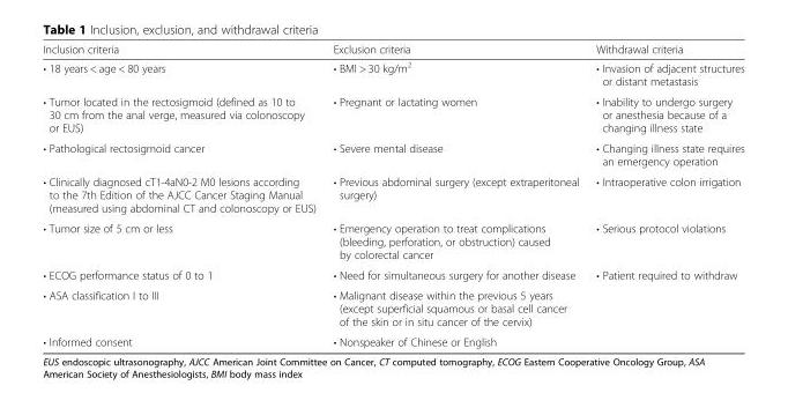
<table><thead><tr><td>Inclusion criteria</td><td>Exclusion criteria</td><td>Withdrawal criteria</td></tr></thead><tbody><tr><td>• 18 years &lt; age &lt; 80 years</td><td>• BMI &gt; 30 kg/m<sup>2</sup></td><td>• Invasion of adjacent structures or distant metastasis</td></tr><tr><td>• Tumor located in the rectosigmoid (defined as 10 to 30 cm from the anal verge, measured via colonoscopy or EUS)</td><td>• Pregnant or lactating women</td><td>• Inability to undergo surgery or anesthesia because of a changing illness state</td></tr><tr><td>• Pathological rectosigmoid cancer</td><td>• Severe mental disease</td><td>• Changing illness state requires an emergency operation</td></tr><tr><td>• Clinically diagnosed cT1-4aN0-2 M0 lesions according to the 7th Edition of the AJCC Cancer Staging Manual (measured using abdominal CT and colonoscopy or EUS)</td><td>• Previous abdominal surgery (except extraperitoneal surgery)</td><td>• Intraoperative colon irrigation</td></tr><tr><td>• Tumor size of 5 cm or less</td><td>• Emergency operation to treat complications (bleeding, perforation, or obstruction) caused by colorectal cancer</td><td>• Serious protocol violations</td></tr><tr><td>• ECOG performance status of 0 to 1</td><td>• Need for simultaneous surgery for another disease</td><td>• Patient required to withdraw</td></tr><tr><td>• ASA classification I to III</td><td>• Malignant disease within the previous 5 years (except superficial squamous or basal cell cancer of the skin or in situ cancer of the cervix)</td><td></td></tr><tr><td>• Informed consent</td><td>• Nonspeaker of Chinese or English</td><td></td></tr></tbody></table>